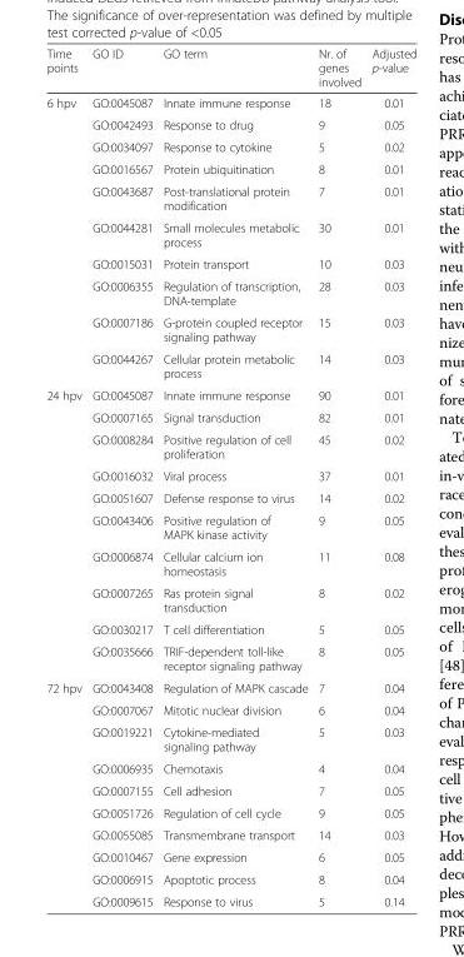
<table><thead><tr><td>Time points</td><td>GO ID</td><td>GO term</td><td>Nr. of genes involved</td><td>Adjusted p-value</td></tr></thead><tbody><tr><td rowspan="10">6 hpv</td><td>GO:0045087</td><td>Innate immune response</td><td>18</td><td>0.01</td></tr><tr><td>GO:0042493</td><td>Response to drug</td><td>9</td><td>0.05</td></tr><tr><td>GO:0034097</td><td>Response to cytokine</td><td>5</td><td>0.02</td></tr><tr><td>GO:0016567</td><td>Protein ubiquitination</td><td>8</td><td>0.01</td></tr><tr><td>GO:0043687</td><td>Post-translational protein modification</td><td>7</td><td>0.01</td></tr><tr><td>GO:0044281</td><td>Small molecules metabolic process</td><td>30</td><td>0.01</td></tr><tr><td>GO:0015031</td><td>Protein transport</td><td>10</td><td>0.03</td></tr><tr><td>GO:0006355</td><td>Regulation of transcription, DNA-template</td><td>28</td><td>0.03</td></tr><tr><td>GO:0007186</td><td>G-protein coupled receptor signaling pathway</td><td>15</td><td>0.03</td></tr><tr><td>GO:0044267</td><td>Cellular protein metabolic process</td><td>14</td><td>0.03</td></tr><tr><td rowspan="10">24 hpv</td><td>GO:0045087</td><td>Innate immune response</td><td>90</td><td>0.01</td></tr><tr><td>GO:0007165</td><td>Signal transduction</td><td>82</td><td>0.01</td></tr><tr><td>GO:0008284</td><td>Positive regulation of cell proliferation</td><td>45</td><td>0.02</td></tr><tr><td>GO:0016032</td><td>Viral process</td><td>37</td><td>0.01</td></tr><tr><td>GO:0051607</td><td>Defense response to virus</td><td>14</td><td>0.02</td></tr><tr><td>GO:0043406</td><td>Positive regulation of MAPK kinase activity</td><td>9</td><td>0.05</td></tr><tr><td>GO:0006874</td><td>Cellular calcium ion homeostasis</td><td>11</td><td>0.08</td></tr><tr><td>GO:0007265</td><td>Ras protein signal transduction</td><td>8</td><td>0.02</td></tr><tr><td>GO:0030217</td><td>T cell differentiation</td><td>5</td><td>0.05</td></tr><tr><td>GO:0035666</td><td>TRIF-dependent toll-like receptor signaling pathway</td><td>8</td><td>0.05</td></tr><tr><td rowspan="10">72 hpv</td><td>GO:0043408</td><td>Regulation of MAPK cascade</td><td>7</td><td>0.04</td></tr><tr><td>GO:0007067</td><td>Mitotic nuclear division</td><td>6</td><td>0.04</td></tr><tr><td>GO:0019221</td><td>Cytokine-mediated signaling pathway</td><td>5</td><td>0.03</td></tr><tr><td>GO:0006935</td><td>Chemotaxis</td><td>4</td><td>0.04</td></tr><tr><td>GO:0007155</td><td>Cell adhesion</td><td>7</td><td>0.05</td></tr><tr><td>GO:0051726</td><td>Regulation of cell cycle</td><td>9</td><td>0.05</td></tr><tr><td>GO:0055085</td><td>Transmembrane transport</td><td>14</td><td>0.03</td></tr><tr><td>GO:0010467</td><td>Gene expression</td><td>6</td><td>0.05</td></tr><tr><td>GO:0006915</td><td>Apoptotic process</td><td>8</td><td>0.04</td></tr><tr><td>GO:0009615</td><td>Response to virus</td><td>5</td><td>0.14</td></tr></tbody></table>